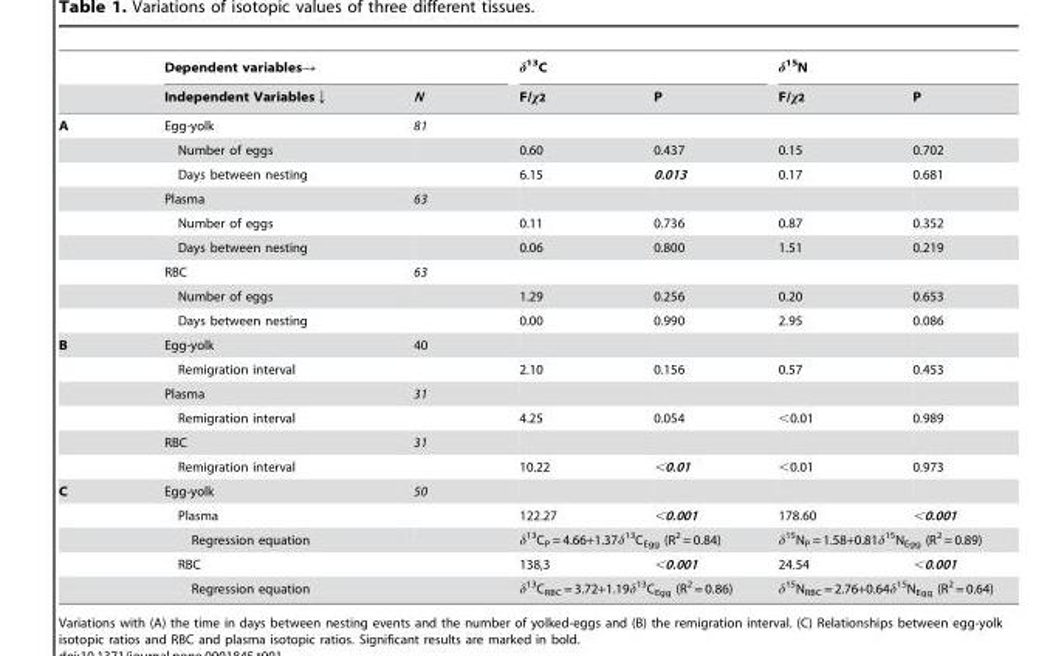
<table><thead><tr><td rowspan="2"></td><td colspan="2">Dependent variables→</td><td colspan="2">δ<sup>13</sup>C</td><td colspan="2">δ<sup>15</sup>N</td></tr><tr><td>Independent Variables↓</td><td>N</td><td>F/χ2</td><td>P</td><td>F/χ2</td><td>P</td></tr></thead><tbody><tr><td rowspan="9">A</td><td>Egg-yolk</td><td>81</td><td></td><td></td><td></td><td></td></tr><tr><td>Number of eggs</td><td></td><td>0.60</td><td>0.437</td><td>0.15</td><td>0.702</td></tr><tr><td>Days between nesting</td><td></td><td>6.15</td><td>0.013</td><td>0.17</td><td>0.681</td></tr><tr><td>Plasma</td><td>63</td><td></td><td></td><td></td><td></td></tr><tr><td>Number of eggs</td><td></td><td>0.11</td><td>0.736</td><td>0.87</td><td>0.352</td></tr><tr><td>Days between nesting</td><td></td><td>0.06</td><td>0.800</td><td>1.51</td><td>0.219</td></tr><tr><td>RBC</td><td>63</td><td></td><td></td><td></td><td></td></tr><tr><td>Number of eggs</td><td></td><td>1.29</td><td>0.256</td><td>0.20</td><td>0.653</td></tr><tr><td>Days between nesting</td><td></td><td>0.00</td><td>0.990</td><td>2.95</td><td>0.086</td></tr><tr><td rowspan="6">B</td><td>Egg-yolk</td><td>40</td><td></td><td></td><td></td><td></td></tr><tr><td>Remigration interval</td><td></td><td>2.10</td><td>0.156</td><td>0.57</td><td>0.453</td></tr><tr><td>Plasma</td><td>31</td><td></td><td></td><td></td><td></td></tr><tr><td>Remigration interval</td><td></td><td>4.25</td><td>0.054</td><td>&lt;0.01</td><td>0.989</td></tr><tr><td>RBC</td><td>31</td><td></td><td></td><td></td><td></td></tr><tr><td>Remigration interval</td><td></td><td>10.22</td><td>&lt;0.01</td><td>&lt;0.01</td><td>0.973</td></tr><tr><td rowspan="5">C</td><td>Egg-yolk</td><td>50</td><td></td><td></td><td></td><td></td></tr><tr><td>Plasma</td><td></td><td>122.27</td><td>&lt;0.001</td><td>178.60</td><td>&lt;0.001</td></tr><tr><td>Regression equation</td><td></td><td colspan="2">δ<sup>13</sup>C<sub>P</sub> = 4.66+1.37δ<sup>13</sup>C<sub>Egg</sub> (R<sup>2</sup> = 0.84)</td><td colspan="2">δ<sup>15</sup>N<sub>P</sub> = 1.58+0.81δ<sup>15</sup>N<sub>Egg</sub> (R<sup>2</sup> = 0.89)</td></tr><tr><td>RBC</td><td></td><td>138,3</td><td>&lt;0.001</td><td>24.54</td><td>&lt;0.001</td></tr><tr><td>Regression equation</td><td></td><td colspan="2">δ<sup>13</sup>C<sub>RBC</sub> = 3.72+1.19δ<sup>13</sup>C<sub>Egg</sub> (R<sup>2</sup> = 0.86)</td><td colspan="2">δ<sup>15</sup>N<sub>RBC</sub> = 2.76+0.64δ<sup>15</sup>N<sub>Egg</sub> (R<sup>2</sup> = 0.64)</td></tr></tbody></table>